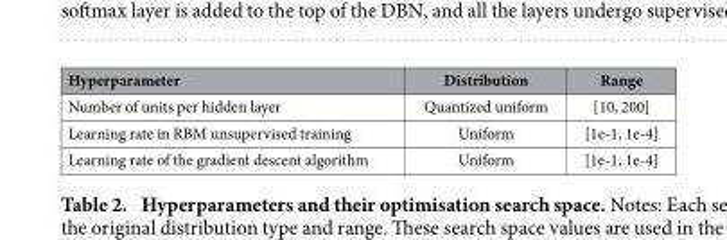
<table><thead><tr><td>Hyperparameter</td><td>Distribution</td><td>Range</td></tr></thead><tbody><tr><td>Number of units per hidden layer</td><td>Quantized uniform</td><td>[10, 200]</td></tr><tr><td>Learning rate in RBM unsupervised training</td><td>Uniform</td><td>[1e-1, 1e-4]</td></tr><tr><td>Learning rate of the gradient descent algorithm</td><td>Uniform</td><td>[1e-1, 1e-4]</td></tr></tbody></table>